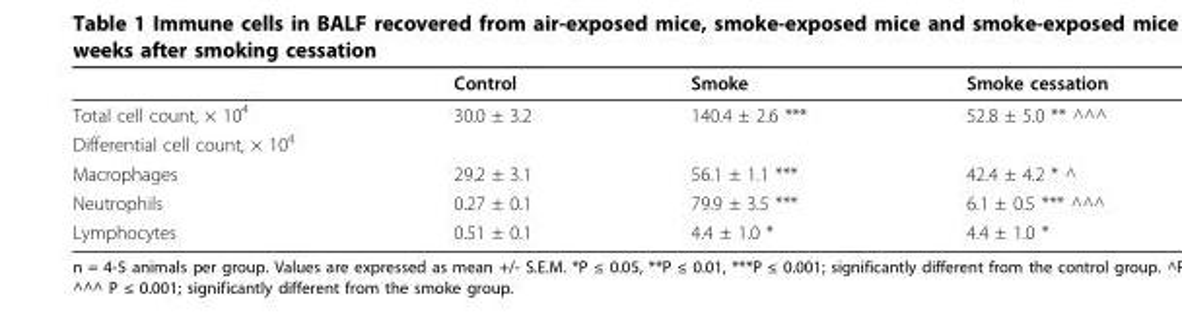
<table><thead><tr><td></td><td>Control</td><td>Smoke</td><td>Smoke cessation</td></tr></thead><tbody><tr><td>Total cell count, × 10<sup>4</sup></td><td>30.0 ± 3.2</td><td>140.4 ± 2.6 ***</td><td>52.8 ± 5.0 ** ^^^</td></tr><tr><td colspan="4">Differential cell count, × 10<sup>4</sup></td></tr><tr><td>Macrophages</td><td>29.2 ± 3.1</td><td>56.1 ± 1.1 ***</td><td>42.4 ± 4.2 * ^</td></tr><tr><td>Neutrophils</td><td>0.27 ± 0.1</td><td>79.9 ± 3.5 ***</td><td>6.1 ± 0.5 *** ^^^</td></tr><tr><td>Lymphocytes</td><td>0.51 ± 0.1</td><td>4.4 ± 1.0 *</td><td>4.4 ± 1.0 *</td></tr></tbody></table>